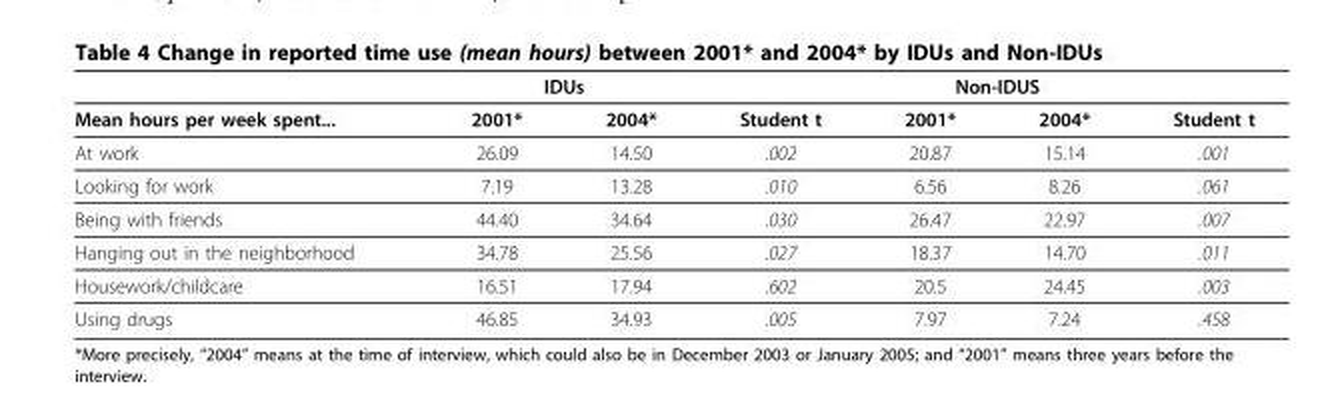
<table><thead><tr><td rowspan="2">Mean hours per week spent...</td><td colspan="2">IDUs</td><td rowspan="2">Student t</td><td colspan="2">Non-IDUS</td><td rowspan="2">Student t</td></tr><tr><td>2001*</td><td>2004*</td><td>2001*</td><td>2004*</td></tr></thead><tbody><tr><td>At work</td><td>26.09</td><td>14.50</td><td>.002</td><td>20.87</td><td>15.14</td><td>.001</td></tr><tr><td>Looking for work</td><td>7.19</td><td>13.28</td><td>.010</td><td>6.56</td><td>8.26</td><td>.061</td></tr><tr><td>Being with friends</td><td>44.40</td><td>34.64</td><td>.030</td><td>26.47</td><td>22.97</td><td>.007</td></tr><tr><td>Hanging out in the neighborhood</td><td>34.78</td><td>25.56</td><td>.027</td><td>18.37</td><td>14.70</td><td>.011</td></tr><tr><td>Housework/childcare</td><td>16.51</td><td>17.94</td><td>.602</td><td>20.5</td><td>24.45</td><td>.003</td></tr><tr><td>Using drugs</td><td>46.85</td><td>34.93</td><td>.005</td><td>7.97</td><td>7.24</td><td>.458</td></tr></tbody></table>